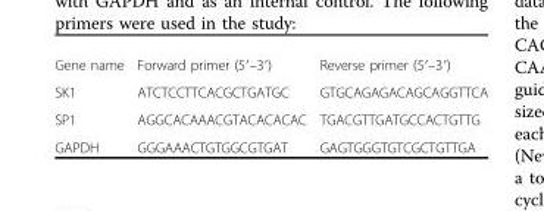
<table><tbody><tr><td>Gene name</td><td>Forward primer (5′–3′)</td><td>Reverse primer (5′–3′)</td></tr><tr><td>SK1</td><td>ATCTCCTTCACGCTGATGC</td><td>GTGCAGAGACAGCAGGTTCA</td></tr><tr><td>SP1</td><td>AGGCACAAACGTACACACAC</td><td>TGACGTTGATGCCACTGTTG</td></tr><tr><td>GAPDH</td><td>GGGAAACTGTGGCGTGAT</td><td>GAGTGGGTGTCGCTGTTGA</td></tr></tbody></table>